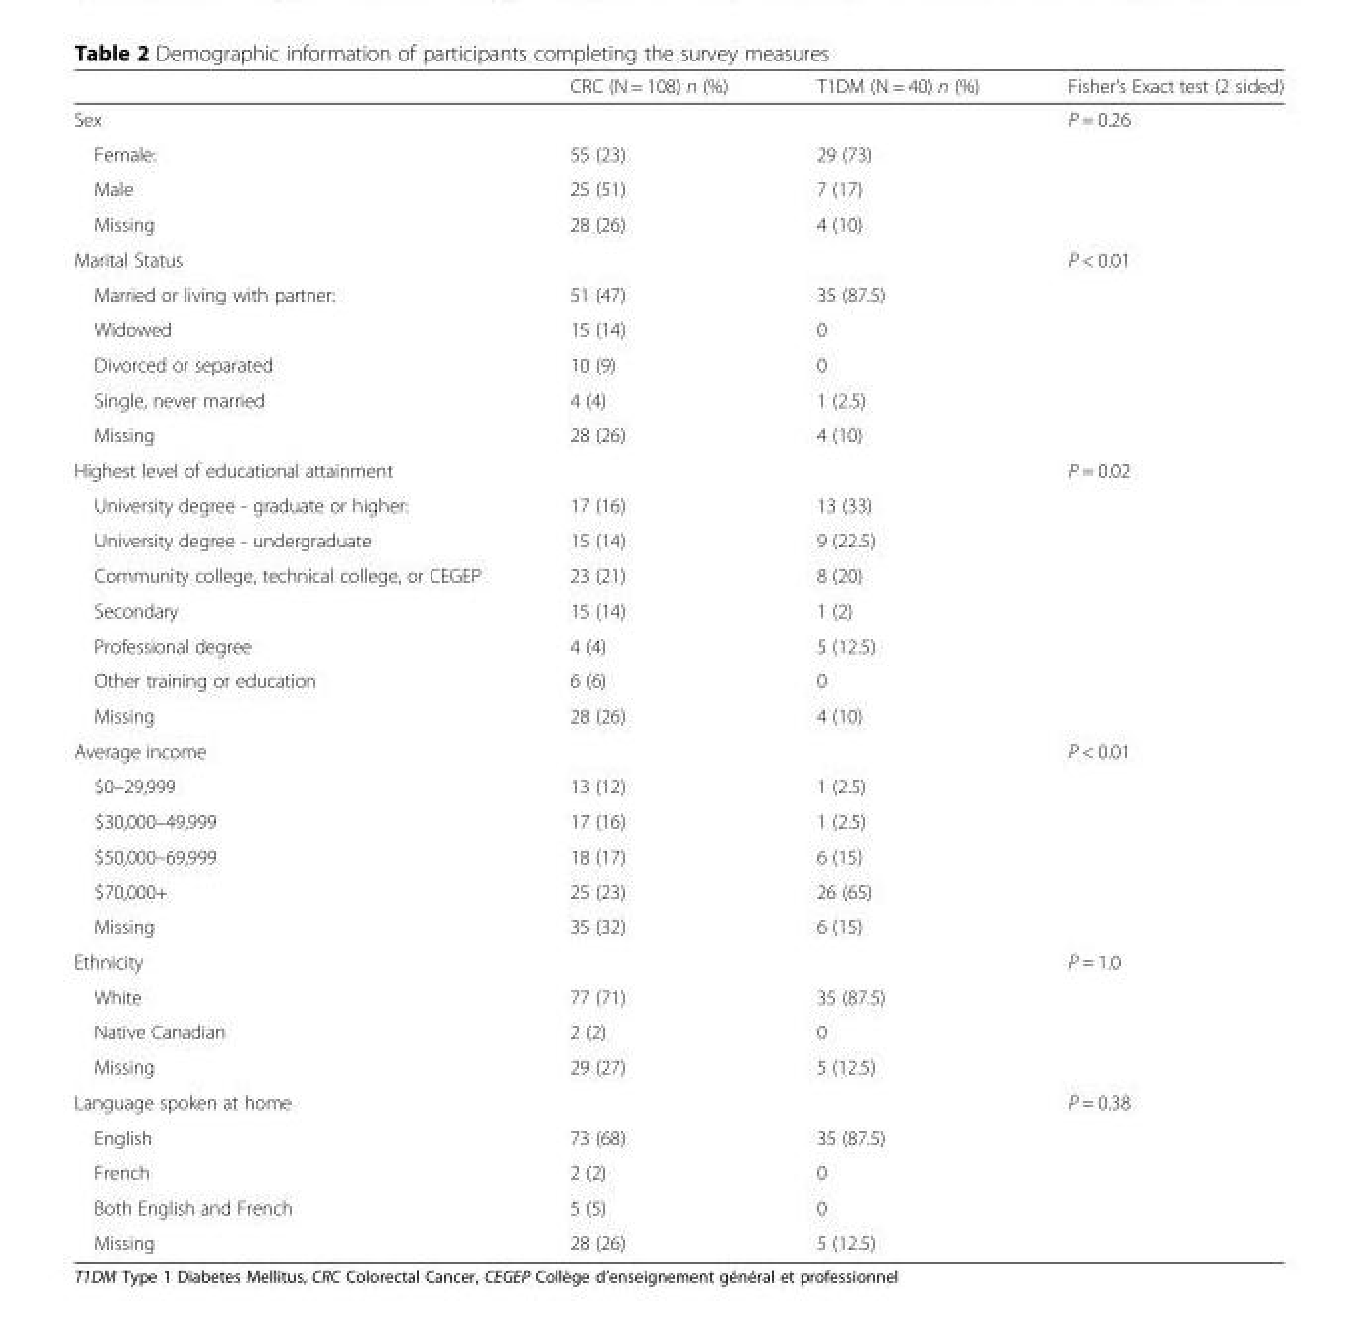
<table><thead><tr><td></td><td>CRC (N = 108) n (%)</td><td>T1DM (N = 40) n (%)</td><td>Fisher’s Exact test (2 sided)</td></tr></thead><tbody><tr><td>Sex</td><td></td><td></td><td>P = 0.26</td></tr><tr><td>Female:</td><td>55 (23)</td><td>29 (73)</td><td></td></tr><tr><td>Male</td><td>25 (51)</td><td>7 (17)</td><td></td></tr><tr><td>Missing</td><td>28 (26)</td><td>4 (10)</td><td></td></tr><tr><td>Marital Status</td><td></td><td></td><td>P &lt; 0.01</td></tr><tr><td>Married or living with partner:</td><td>51 (47)</td><td>35 (87.5)</td><td></td></tr><tr><td>Widowed</td><td>15 (14)</td><td>0</td><td></td></tr><tr><td>Divorced or separated</td><td>10 (9)</td><td>0</td><td></td></tr><tr><td>Single, never married</td><td>4 (4)</td><td>1 (2.5)</td><td></td></tr><tr><td>Missing</td><td>28 (26)</td><td>4 (10)</td><td></td></tr><tr><td>Highest level of educational attainment</td><td></td><td></td><td>P = 0.02</td></tr><tr><td>University degree - graduate or higher:</td><td>17 (16)</td><td>13 (33)</td><td></td></tr><tr><td>University degree - undergraduate</td><td>15 (14)</td><td>9 (22.5)</td><td></td></tr><tr><td>Community college, technical college, or CEGEP</td><td>23 (21)</td><td>8 (20)</td><td></td></tr><tr><td>Secondary</td><td>15 (14)</td><td>1 (2)</td><td></td></tr><tr><td>Professional degree</td><td>4 (4)</td><td>5 (12.5)</td><td></td></tr><tr><td>Other training or education</td><td>6 (6)</td><td>0</td><td></td></tr><tr><td>Missing</td><td>28 (26)</td><td>4 (10)</td><td></td></tr><tr><td>Average income</td><td></td><td></td><td>P &lt; 0.01</td></tr><tr><td>$0–29,999</td><td>13 (12)</td><td>1 (2.5)</td><td></td></tr><tr><td>$30,000–49,999</td><td>17 (16)</td><td>1 (2.5)</td><td></td></tr><tr><td>$50,000–69,999</td><td>18 (17)</td><td>6 (15)</td><td></td></tr><tr><td>$70,000+</td><td>25 (23)</td><td>26 (65)</td><td></td></tr><tr><td>Missing</td><td>35 (32)</td><td>6 (15)</td><td></td></tr><tr><td>Ethnicity</td><td></td><td></td><td>P = 1.0</td></tr><tr><td>White</td><td>77 (71)</td><td>35 (87.5)</td><td></td></tr><tr><td>Native Canadian</td><td>2 (2)</td><td>0</td><td></td></tr><tr><td>Missing</td><td>29 (27)</td><td>5 (12.5)</td><td></td></tr><tr><td>Language spoken at home</td><td></td><td></td><td>P = 0.38</td></tr><tr><td>English</td><td>73 (68)</td><td>35 (87.5)</td><td></td></tr><tr><td>French</td><td>2 (2)</td><td>0</td><td></td></tr><tr><td>Both English and French</td><td>5 (5)</td><td>0</td><td></td></tr><tr><td>Missing</td><td>28 (26)</td><td>5 (12.5)</td><td></td></tr></tbody></table>